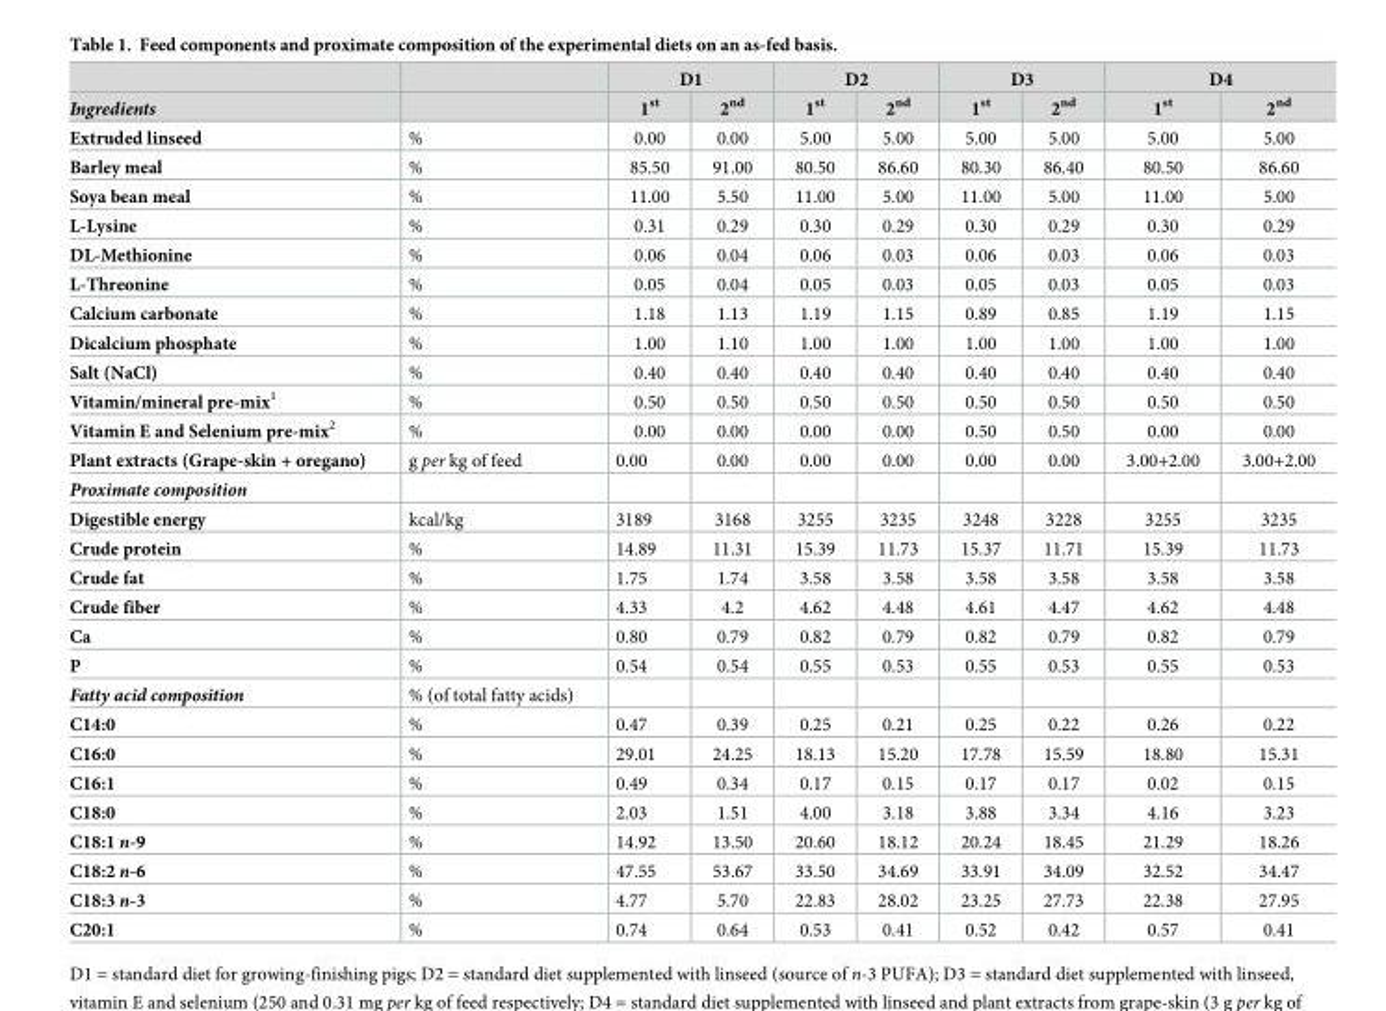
<table><thead><tr><td rowspan="2">Ingredients</td><td rowspan="2"></td><td colspan="2">D1</td><td colspan="2">D2</td><td colspan="2">D3</td><td colspan="2">D4</td></tr><tr><td>1<sup>st</sup></td><td>2<sup>nd</sup></td><td>1<sup>st</sup></td><td>2<sup>nd</sup></td><td>1<sup>st</sup></td><td>2<sup>nd</sup></td><td>1<sup>st</sup></td><td>2<sup>nd</sup></td></tr></thead><tbody><tr><td>Extruded linseed</td><td>%</td><td>0.00</td><td>0.00</td><td>5.00</td><td>5.00</td><td>5.00</td><td>5.00</td><td>5.00</td><td>5.00</td></tr><tr><td>Barley meal</td><td>%</td><td>85.50</td><td>91.00</td><td>80.50</td><td>86.60</td><td>80.30</td><td>86.40</td><td>80.50</td><td>86.60</td></tr><tr><td>Soya bean meal</td><td>%</td><td>11.00</td><td>5.50</td><td>11.00</td><td>5.00</td><td>11.00</td><td>5.00</td><td>11.00</td><td>5.00</td></tr><tr><td>L-Lysine</td><td>%</td><td>0.31</td><td>0.29</td><td>0.30</td><td>0.29</td><td>0.30</td><td>0.29</td><td>0.30</td><td>0.29</td></tr><tr><td>DL-Methionine</td><td>%</td><td>0.06</td><td>0.04</td><td>0.06</td><td>0.03</td><td>0.06</td><td>0.03</td><td>0.06</td><td>0.03</td></tr><tr><td>L-Threonine</td><td>%</td><td>0.05</td><td>0.04</td><td>0.05</td><td>0.03</td><td>0.05</td><td>0.03</td><td>0.05</td><td>0.03</td></tr><tr><td>Calcium carbonate</td><td>%</td><td>1.18</td><td>1.13</td><td>1.19</td><td>1.15</td><td>0.89</td><td>0.85</td><td>1.19</td><td>1.15</td></tr><tr><td>Dicalcium phosphate</td><td>%</td><td>1.00</td><td>1.10</td><td>1.00</td><td>1.00</td><td>1.00</td><td>1.00</td><td>1.00</td><td>1.00</td></tr><tr><td>Salt (NaCl)</td><td>%</td><td>0.40</td><td>0.40</td><td>0.40</td><td>0.40</td><td>0.40</td><td>0.40</td><td>0.40</td><td>0.40</td></tr><tr><td>Vitamin/mineral pre-mix<sup>1</sup></td><td>%</td><td>0.50</td><td>0.50</td><td>0.50</td><td>0.50</td><td>0.50</td><td>0.50</td><td>0.50</td><td>0.50</td></tr><tr><td>Vitamin E and Selenium pre-mix<sup>2</sup></td><td>%</td><td>0.00</td><td>0.00</td><td>0.00</td><td>0.00</td><td>0.50</td><td>0.50</td><td>0.00</td><td>0.00</td></tr><tr><td>Plant extracts (Grape-skin + oregano)</td><td>g per kg of feed</td><td>0.00</td><td>0.00</td><td>0.00</td><td>0.00</td><td>0.00</td><td>0.00</td><td>3.00+2.00</td><td>3.00+2.00</td></tr><tr><td colspan="10">Proximate composition</td></tr><tr><td>Digestible energy</td><td>kcal/kg</td><td>3189</td><td>3168</td><td>3255</td><td>3235</td><td>3248</td><td>3228</td><td>3255</td><td>3235</td></tr><tr><td>Crude protein</td><td>%</td><td>14.89</td><td>11.31</td><td>15.39</td><td>11.73</td><td>15.37</td><td>11.71</td><td>15.39</td><td>11.73</td></tr><tr><td>Crude fat</td><td>%</td><td>1.75</td><td>1.74</td><td>3.58</td><td>3.58</td><td>3.58</td><td>3.58</td><td>3.58</td><td>3.58</td></tr><tr><td>Crude fiber</td><td>%</td><td>4.33</td><td>4.2</td><td>4.62</td><td>4.48</td><td>4.61</td><td>4.47</td><td>4.62</td><td>4.48</td></tr><tr><td>Ca</td><td>%</td><td>0.80</td><td>0.79</td><td>0.82</td><td>0.79</td><td>0.82</td><td>0.79</td><td>0.82</td><td>0.79</td></tr><tr><td>P</td><td>%</td><td>0.54</td><td>0.54</td><td>0.55</td><td>0.53</td><td>0.55</td><td>0.53</td><td>0.55</td><td>0.53</td></tr><tr><td>Fatty acid composition</td><td>% (of total fatty acids)</td><td></td><td></td><td></td><td></td><td></td><td></td><td></td><td></td></tr><tr><td>C14:0</td><td>%</td><td>0.47</td><td>0.39</td><td>0.25</td><td>0.21</td><td>0.25</td><td>0.22</td><td>0.26</td><td>0.22</td></tr><tr><td>C16:0</td><td>%</td><td>29.01</td><td>24.25</td><td>18.13</td><td>15.20</td><td>17.78</td><td>15.59</td><td>18.80</td><td>15.31</td></tr><tr><td>C16:1</td><td>%</td><td>0.49</td><td>0.34</td><td>0.17</td><td>0.15</td><td>0.17</td><td>0.17</td><td>0.02</td><td>0.15</td></tr><tr><td>C18:0</td><td>%</td><td>2.03</td><td>1.51</td><td>4.00</td><td>3.18</td><td>3.88</td><td>3.34</td><td>4.16</td><td>3.23</td></tr><tr><td>C18:1 n-9</td><td>%</td><td>14.92</td><td>13.50</td><td>20.60</td><td>18.12</td><td>20.24</td><td>18.45</td><td>21.29</td><td>18.26</td></tr><tr><td>C18:2 n-6</td><td>%</td><td>47.55</td><td>53.67</td><td>33.50</td><td>34.69</td><td>33.91</td><td>34.09</td><td>32.52</td><td>34.47</td></tr><tr><td>C18:3 n-3</td><td>%</td><td>4.77</td><td>5.70</td><td>22.83</td><td>28.02</td><td>23.25</td><td>27.73</td><td>22.38</td><td>27.95</td></tr><tr><td>C20:1</td><td>%</td><td>0.74</td><td>0.64</td><td>0.53</td><td>0.41</td><td>0.52</td><td>0.42</td><td>0.57</td><td>0.41</td></tr></tbody></table>